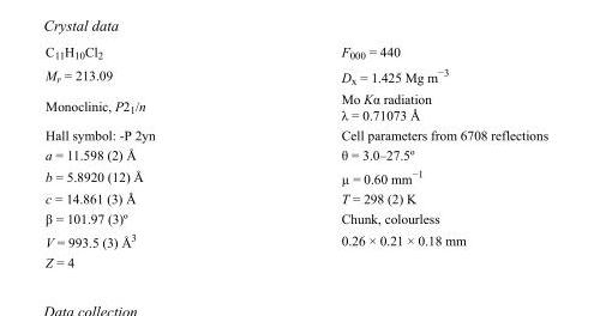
<table><tbody><tr><td>C<sub>11</sub>H<sub>10</sub>Cl<sub>2</sub></td><td>F<sub>000</sub> = 440</td></tr><tr><td>M<sub>r</sub> = 213.09</td><td>D<sub>x</sub> = 1.425 Mg m<sup>−3</sup></td></tr><tr><td>Monoclinic, P2<sub>1</sub>/n</td><td>Mo Kα radiation λ = 0.71073 Å</td></tr><tr><td>Hall symbol: -P 2yn</td><td>Cell parameters from 6708 reflections</td></tr><tr><td>a = 11.598 (2) Å</td><td>θ = 3.0–27.5º</td></tr><tr><td>b = 5.8920 (12) Å</td><td>µ = 0.60 mm<sup>−1</sup></td></tr><tr><td>c = 14.861 (3) Å</td><td>T = 298 (2) K</td></tr><tr><td>β = 101.97 (3)º</td><td>Chunk, colourless</td></tr><tr><td>V = 993.5 (3) Å<sup>3</sup></td><td>0.26 × 0.21 × 0.18 mm</td></tr><tr><td>Z = 4</td><td></td></tr></tbody></table>